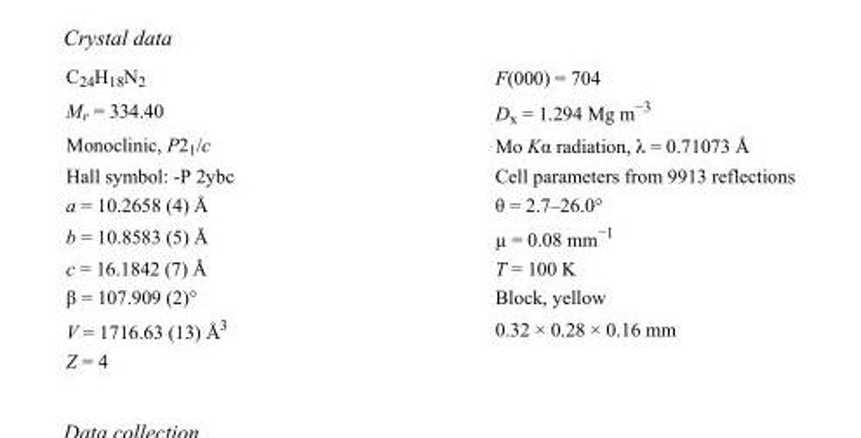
<table><tbody><tr><td>C<sub>24</sub>H<sub>18</sub>N<sub>2</sub></td><td>F(000) = 704</td></tr><tr><td>M<sub>r</sub> = 334.40</td><td>D<sub>x</sub> = 1.294 Mg m<sup>−3</sup></td></tr><tr><td>Monoclinic, P2<sub>1</sub>/c</td><td>Mo Kα radiation, λ = 0.71073 Å</td></tr><tr><td>Hall symbol: -P 2ybc</td><td>Cell parameters from 9913 reflections</td></tr><tr><td>a = 10.2658 (4) Å</td><td>θ = 2.7–26.0°</td></tr><tr><td>b = 10.8583 (5) Å</td><td>µ = 0.08 mm<sup>−1</sup></td></tr><tr><td>c = 16.1842 (7) Å</td><td>T = 100 K</td></tr><tr><td>β = 107.909 (2)°</td><td>Block, yellow</td></tr><tr><td>V = 1716.63 (13) Å<sup>3</sup></td><td>0.32 × 0.28 × 0.16 mm</td></tr><tr><td>Z = 4</td><td></td></tr></tbody></table>